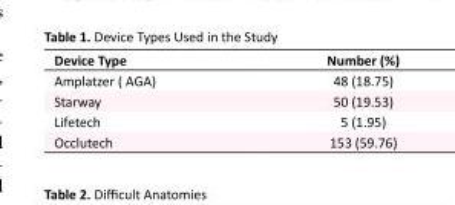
<table><tbody><tr><td>Device Type</td><td>Number (%)</td></tr><tr><td>Amplatzer ( AGA)</td><td>48 (18.75)</td></tr><tr><td>Starway</td><td>50 (19.53)</td></tr><tr><td>Lifetech</td><td>5 (1.95)</td></tr><tr><td>Occlutech</td><td>153 (59.76)</td></tr></tbody></table>